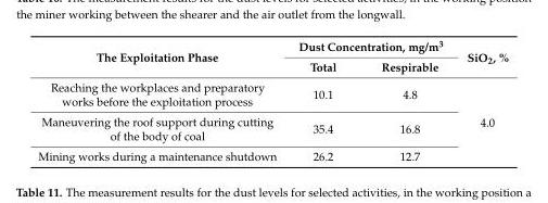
<table><thead><tr><td rowspan="2">The Exploitation Phase</td><td colspan="2">Dust Concentration, mg/m<sup>3</sup></td><td rowspan="2">SiO<sub>2</sub>, %</td></tr><tr><td>Total</td><td>Respirable</td></tr></thead><tbody><tr><td>Reaching the workplaces and preparatory works before the exploitation process</td><td>10.1</td><td>4.8</td><td rowspan="3">4.0</td></tr><tr><td>Maneuvering the roof support during cutting of the body of coal</td><td>35.4</td><td>16.8</td></tr><tr><td>Mining works during a maintenance shutdown</td><td>26.2</td><td>12.7</td></tr></tbody></table>